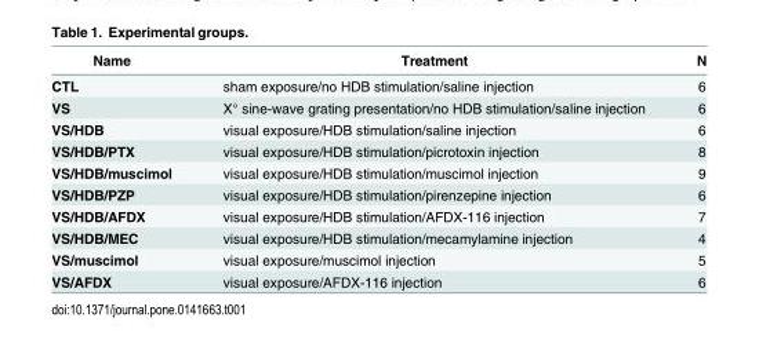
<table><thead><tr><td>Name</td><td>Treatment</td><td>N</td></tr></thead><tbody><tr><td>CTL</td><td>sham exposure/no HDB stimulation/saline injection</td><td>6</td></tr><tr><td>VS</td><td>X° sine-wave grating presentation/no HDB stimulation/saline injection</td><td>6</td></tr><tr><td>VS/HDB</td><td>visual exposure/HDB stimulation/saline injection</td><td>6</td></tr><tr><td>VS/HDB/PTX</td><td>visual exposure/HDB stimulation/picrotoxin injection</td><td>8</td></tr><tr><td>VS/HDB/muscimol</td><td>visual exposure/HDB stimulation/muscimol injection</td><td>9</td></tr><tr><td>VS/HDB/PZP</td><td>visual exposure/HDB stimulation/pirenzepine injection</td><td>6</td></tr><tr><td>VS/HDB/AFDX</td><td>visual exposure/HDB stimulation/AFDX-116 injection</td><td>7</td></tr><tr><td>VS/HDB/MEC</td><td>visual exposure/HDB stimulation/mecamylamine injection</td><td>4</td></tr><tr><td>VS/muscimol</td><td>visual exposure/muscimol injection</td><td>5</td></tr><tr><td>VS/AFDX</td><td>visual exposure/AFDX-116 injection</td><td>6</td></tr></tbody></table>